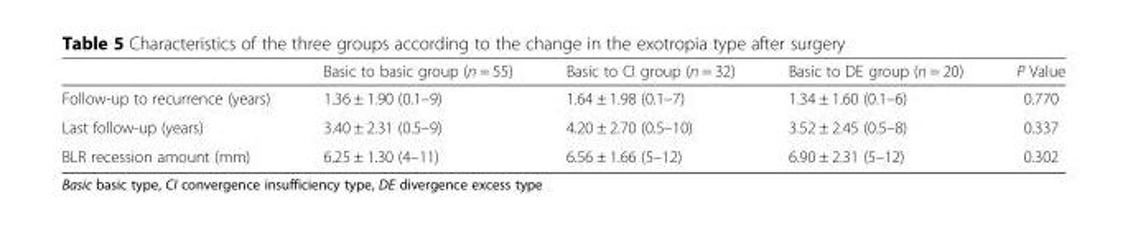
<table><thead><tr><td></td><td>Basic to basic group (n = 55)</td><td>Basic to CI group (n = 32)</td><td>Basic to DE group (n = 20)</td><td>P Value</td></tr></thead><tbody><tr><td>Follow-up to recurrence (years)</td><td>1.36 ± 1.90 (0.1–9)</td><td>1.64 ± 1.98 (0.1–7)</td><td>1.34 ± 1.60 (0.1–6)</td><td>0.770</td></tr><tr><td>Last follow-up (years)</td><td>3.40 ± 2.31 (0.5–9)</td><td>4.20 ± 2.70 (0.5–10)</td><td>3.52 ± 2.45 (0.5–8)</td><td>0.337</td></tr><tr><td>BLR recession amount (mm)</td><td>6.25 ± 1.30 (4–11)</td><td>6.56 ± 1.66 (5–12)</td><td>6.90 ± 2.31 (5–12)</td><td>0.302</td></tr></tbody></table>